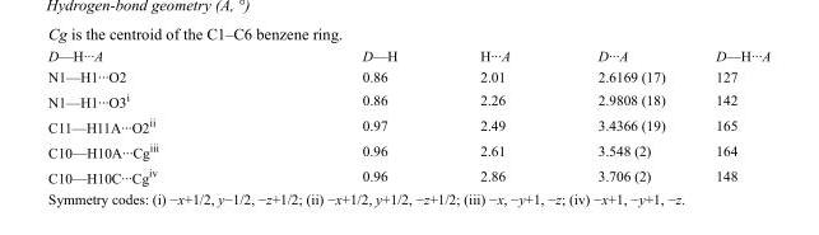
<table><tbody><tr><td>D—H···A</td><td>D—H</td><td>H···A</td><td>D···A</td><td>D—H···A</td></tr><tr><td>N1—H1···O2</td><td>0.86</td><td>2.01</td><td>2.6169 (17)</td><td>127</td></tr><tr><td>N1—H1···O3<sup>i</sup></td><td>0.86</td><td>2.26</td><td>2.9808 (18)</td><td>142</td></tr><tr><td>C11—H11A···O2<sup>ii</sup></td><td>0.97</td><td>2.49</td><td>3.4366 (19)</td><td>165</td></tr><tr><td>C10—H10A···Cg<sup>iii</sup></td><td>0.96</td><td>2.61</td><td>3.548 (2)</td><td>164</td></tr><tr><td>C10—H10C···Cg<sup>iv</sup></td><td>0.96</td><td>2.86</td><td>3.706 (2)</td><td>148</td></tr></tbody></table>